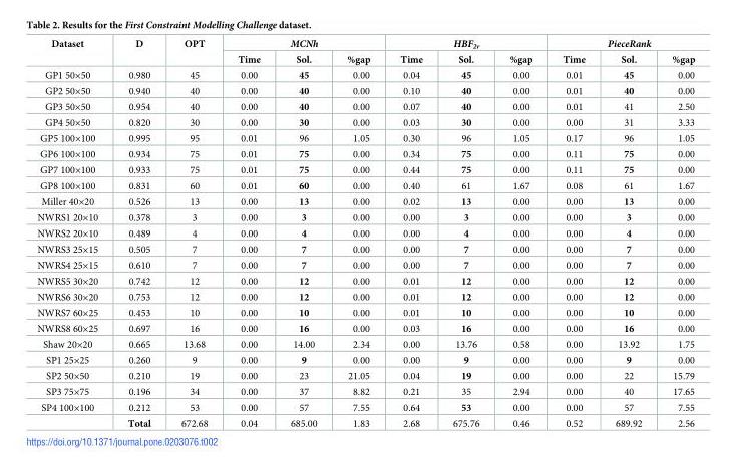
<table><thead><tr><td rowspan="2">Dataset</td><td rowspan="2">D</td><td rowspan="2">OPT</td><td colspan="3">MCNh</td><td colspan="3">HBF<sub>2r</sub></td><td colspan="3">PieceRank</td></tr><tr><td>Time</td><td>Sol.</td><td>%gap</td><td>Time</td><td>Sol.</td><td>%gap</td><td>Time</td><td>Sol.</td><td>%gap</td></tr></thead><tbody><tr><td>GP1 50×50</td><td>0.980</td><td>45</td><td>0.00</td><td>45</td><td>0.00</td><td>0.04</td><td>45</td><td>0.00</td><td>0.01</td><td>45</td><td>0.00</td></tr><tr><td>GP2 50×50</td><td>0.940</td><td>40</td><td>0.00</td><td>40</td><td>0.00</td><td>0.10</td><td>40</td><td>0.00</td><td>0.01</td><td>40</td><td>0.00</td></tr><tr><td>GP3 50×50</td><td>0.954</td><td>40</td><td>0.00</td><td>40</td><td>0.00</td><td>0.07</td><td>40</td><td>0.00</td><td>0.01</td><td>41</td><td>2.50</td></tr><tr><td>GP4 50×50</td><td>0.820</td><td>30</td><td>0.00</td><td>30</td><td>0.00</td><td>0.03</td><td>30</td><td>0.00</td><td>0.00</td><td>31</td><td>3.33</td></tr><tr><td>GP5 100×100</td><td>0.995</td><td>95</td><td>0.01</td><td>96</td><td>1.05</td><td>0.30</td><td>96</td><td>1.05</td><td>0.17</td><td>96</td><td>1.05</td></tr><tr><td>GP6 100×100</td><td>0.934</td><td>75</td><td>0.01</td><td>75</td><td>0.00</td><td>0.34</td><td>75</td><td>0.00</td><td>0.11</td><td>75</td><td>0.00</td></tr><tr><td>GP7 100×100</td><td>0.933</td><td>75</td><td>0.01</td><td>75</td><td>0.00</td><td>0.44</td><td>75</td><td>0.00</td><td>0.11</td><td>75</td><td>0.00</td></tr><tr><td>GP8 100×100</td><td>0.831</td><td>60</td><td>0.01</td><td>60</td><td>0.00</td><td>0.40</td><td>61</td><td>1.67</td><td>0.08</td><td>61</td><td>1.67</td></tr><tr><td>Miller 40×20</td><td>0.526</td><td>13</td><td>0.00</td><td>13</td><td>0.00</td><td>0.02</td><td>13</td><td>0.00</td><td>0.00</td><td>13</td><td>0.00</td></tr><tr><td>NWRS1 20×10</td><td>0.378</td><td>3</td><td>0.00</td><td>3</td><td>0.00</td><td>0.00</td><td>3</td><td>0.00</td><td>0.00</td><td>3</td><td>0.00</td></tr><tr><td>NWRS2 20×10</td><td>0.489</td><td>4</td><td>0.00</td><td>4</td><td>0.00</td><td>0.00</td><td>4</td><td>0.00</td><td>0.00</td><td>4</td><td>0.00</td></tr><tr><td>NWRS3 25×15</td><td>0.505</td><td>7</td><td>0.00</td><td>7</td><td>0.00</td><td>0.00</td><td>7</td><td>0.00</td><td>0.00</td><td>7</td><td>0.00</td></tr><tr><td>NWRS4 25×15</td><td>0.610</td><td>7</td><td>0.00</td><td>7</td><td>0.00</td><td>0.00</td><td>7</td><td>0.00</td><td>0.00</td><td>7</td><td>0.00</td></tr><tr><td>NWRS5 30×20</td><td>0.742</td><td>12</td><td>0.00</td><td>12</td><td>0.00</td><td>0.01</td><td>12</td><td>0.00</td><td>0.00</td><td>12</td><td>0.00</td></tr><tr><td>NWRS6 30×20</td><td>0.753</td><td>12</td><td>0.00</td><td>12</td><td>0.00</td><td>0.01</td><td>12</td><td>0.00</td><td>0.00</td><td>12</td><td>0.00</td></tr><tr><td>NWRS7 60×25</td><td>0.453</td><td>10</td><td>0.00</td><td>10</td><td>0.00</td><td>0.01</td><td>10</td><td>0.00</td><td>0.00</td><td>10</td><td>0.00</td></tr><tr><td>NWRS8 60×25</td><td>0.697</td><td>16</td><td>0.00</td><td>16</td><td>0.00</td><td>0.03</td><td>16</td><td>0.00</td><td>0.00</td><td>16</td><td>0.00</td></tr><tr><td>Shaw 20×20</td><td>0.665</td><td>13.68</td><td>0.00</td><td>14.00</td><td>2.34</td><td>0.00</td><td>13.76</td><td>0.58</td><td>0.00</td><td>13.92</td><td>1.75</td></tr><tr><td>SP1 25×25</td><td>0.260</td><td>9</td><td>0.00</td><td>9</td><td>0.00</td><td>0.00</td><td>9</td><td>0.00</td><td>0.00</td><td>9</td><td>0.00</td></tr><tr><td>SP2 50×50</td><td>0.210</td><td>19</td><td>0.00</td><td>23</td><td>21.05</td><td>0.04</td><td>19</td><td>0.00</td><td>0.00</td><td>22</td><td>15.79</td></tr><tr><td>SP3 75×75</td><td>0.196</td><td>34</td><td>0.00</td><td>37</td><td>8.82</td><td>0.21</td><td>35</td><td>2.94</td><td>0.00</td><td>40</td><td>17.65</td></tr><tr><td rowspan="2">SP4 100×100</td><td>0.212</td><td>53</td><td>0.00</td><td>57</td><td>7.55</td><td>0.64</td><td>53</td><td>0.00</td><td>0.00</td><td>57</td><td>7.55</td></tr><tr><td>Total</td><td>672.68</td><td>0.04</td><td>685.00</td><td>1.83</td><td>2.68</td><td>675.76</td><td>0.46</td><td>0.52</td><td>689.92</td><td>2.56</td></tr></tbody></table>